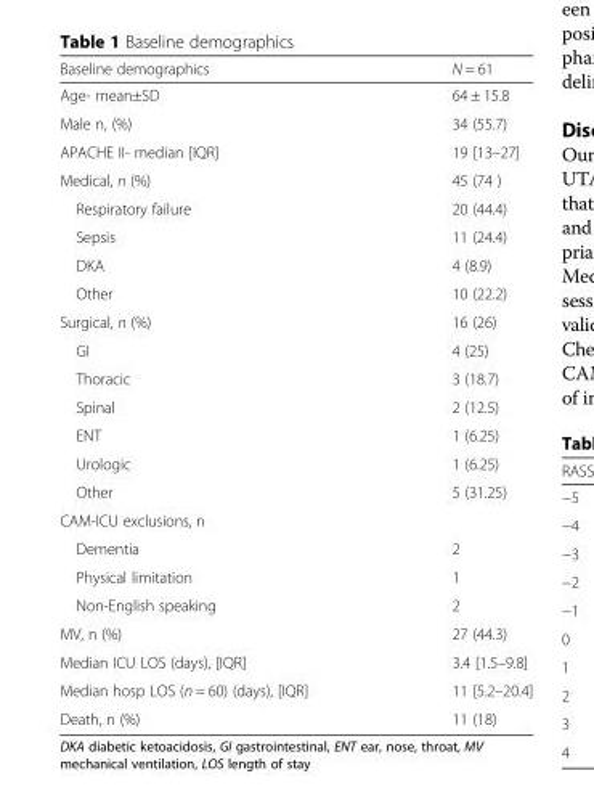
<table><thead><tr><td>Baseline demographics</td><td>N = 61</td></tr></thead><tbody><tr><td>Age- mean±SD</td><td>64 ± 15.8</td></tr><tr><td>Male n, (%)</td><td>34 (55.7)</td></tr><tr><td>APACHE II- median [IQR]</td><td>19 [13–27]</td></tr><tr><td>Medical, n (%)</td><td>45 (74 )</td></tr><tr><td>Respiratory failure</td><td>20 (44.4)</td></tr><tr><td>Sepsis</td><td>11 (24.4)</td></tr><tr><td>DKA</td><td>4 (8.9)</td></tr><tr><td>Other</td><td>10 (22.2)</td></tr><tr><td>Surgical, n (%)</td><td>16 (26)</td></tr><tr><td>GI</td><td>4 (25)</td></tr><tr><td>Thoracic</td><td>3 (18.7)</td></tr><tr><td>Spinal</td><td>2 (12.5)</td></tr><tr><td>ENT</td><td>1 (6.25)</td></tr><tr><td>Urologic</td><td>1 (6.25)</td></tr><tr><td>Other</td><td>5 (31.25)</td></tr><tr><td colspan="2">CAM-ICU exclusions, n</td></tr><tr><td>Dementia</td><td>2</td></tr><tr><td>Physical limitation</td><td>1</td></tr><tr><td>Non-English speaking</td><td>2</td></tr><tr><td>MV, n (%)</td><td>27 (44.3)</td></tr><tr><td>Median ICU LOS (days), [IQR]</td><td>3.4 [1.5–9.8]</td></tr><tr><td>Median hosp LOS (n = 60) (days), [IQR]</td><td>11 [5.2–20.4]</td></tr><tr><td>Death, n (%)</td><td>11 (18)</td></tr></tbody></table>